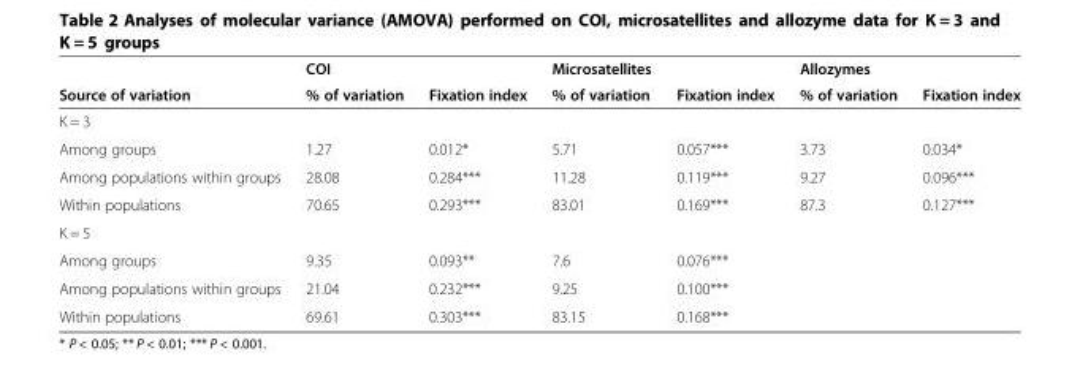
<table><thead><tr><td rowspan="2">Source of variation</td><td rowspan="2">COI % of variation</td><td rowspan="2">Fixation index</td><td rowspan="2">Microsatellites % of variation</td><td rowspan="2">Fixation index</td><td rowspan="2">Allozymes % of variation</td><td rowspan="2">Fixation index</td></tr><tr></tr></thead><tbody><tr><td colspan="7">K = 3</td></tr><tr><td>Among groups</td><td>1.27</td><td>0.012*</td><td>5.71</td><td>0.057***</td><td>3.73</td><td>0.034*</td></tr><tr><td>Among populations within groups</td><td>28.08</td><td>0.284***</td><td>11.28</td><td>0.119***</td><td>9.27</td><td>0.096***</td></tr><tr><td>Within populations</td><td>70.65</td><td>0.293***</td><td>83.01</td><td>0.169***</td><td>87.3</td><td>0.127***</td></tr><tr><td colspan="7">K = 5</td></tr><tr><td>Among groups</td><td>9.35</td><td>0.093**</td><td>7.6</td><td>0.076***</td><td></td><td></td></tr><tr><td>Among populations within groups</td><td>21.04</td><td>0.232***</td><td>9.25</td><td>0.100***</td><td></td><td></td></tr><tr><td>Within populations</td><td>69.61</td><td>0.303***</td><td>83.15</td><td>0.168***</td><td></td><td></td></tr></tbody></table>